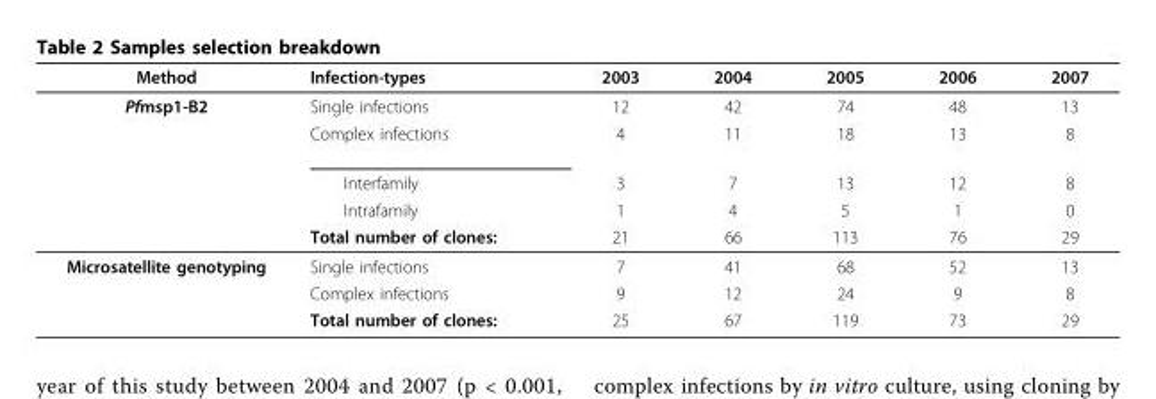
<table><thead><tr><td>Method</td><td>Infection-types</td><td>2003</td><td>2004</td><td>2005</td><td>2006</td><td>2007</td></tr></thead><tbody><tr><td rowspan="5">Pfmsp1-B2</td><td>Single infections</td><td>12</td><td>42</td><td>74</td><td>48</td><td>13</td></tr><tr><td>Complex infections</td><td>4</td><td>11</td><td>18</td><td>13</td><td>8</td></tr><tr><td>Interfamily</td><td>3</td><td>7</td><td>13</td><td>12</td><td>8</td></tr><tr><td>Intrafamily</td><td>1</td><td>4</td><td>5</td><td>1</td><td>0</td></tr><tr><td>Total number of clones:</td><td>21</td><td>66</td><td>113</td><td>76</td><td>29</td></tr><tr><td rowspan="3">Microsatellite genotyping</td><td>Single infections</td><td>7</td><td>41</td><td>68</td><td>52</td><td>13</td></tr><tr><td>Complex infections</td><td>9</td><td>12</td><td>24</td><td>9</td><td>8</td></tr><tr><td>Total number of clones:</td><td>25</td><td>67</td><td>119</td><td>73</td><td>29</td></tr></tbody></table>